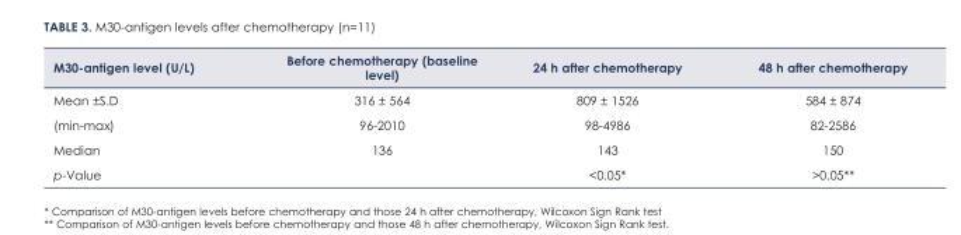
<table><thead><tr><td>M30-antigen level (U/L)</td><td>Before chemotherapy (baseline level)</td><td>24 h after chemotherapy</td><td>48 h after chemotherapy</td></tr></thead><tbody><tr><td>Mean ±S.D</td><td>316 ± 564</td><td>809 ± 1526</td><td>584 ± 874</td></tr><tr><td>(min-max)</td><td>96-2010</td><td>98-4986</td><td>82-2586</td></tr><tr><td>Median</td><td>136</td><td>143</td><td>150</td></tr><tr><td>p-Value</td><td></td><td>&lt;0.05*</td><td>&gt;0.05**</td></tr></tbody></table>